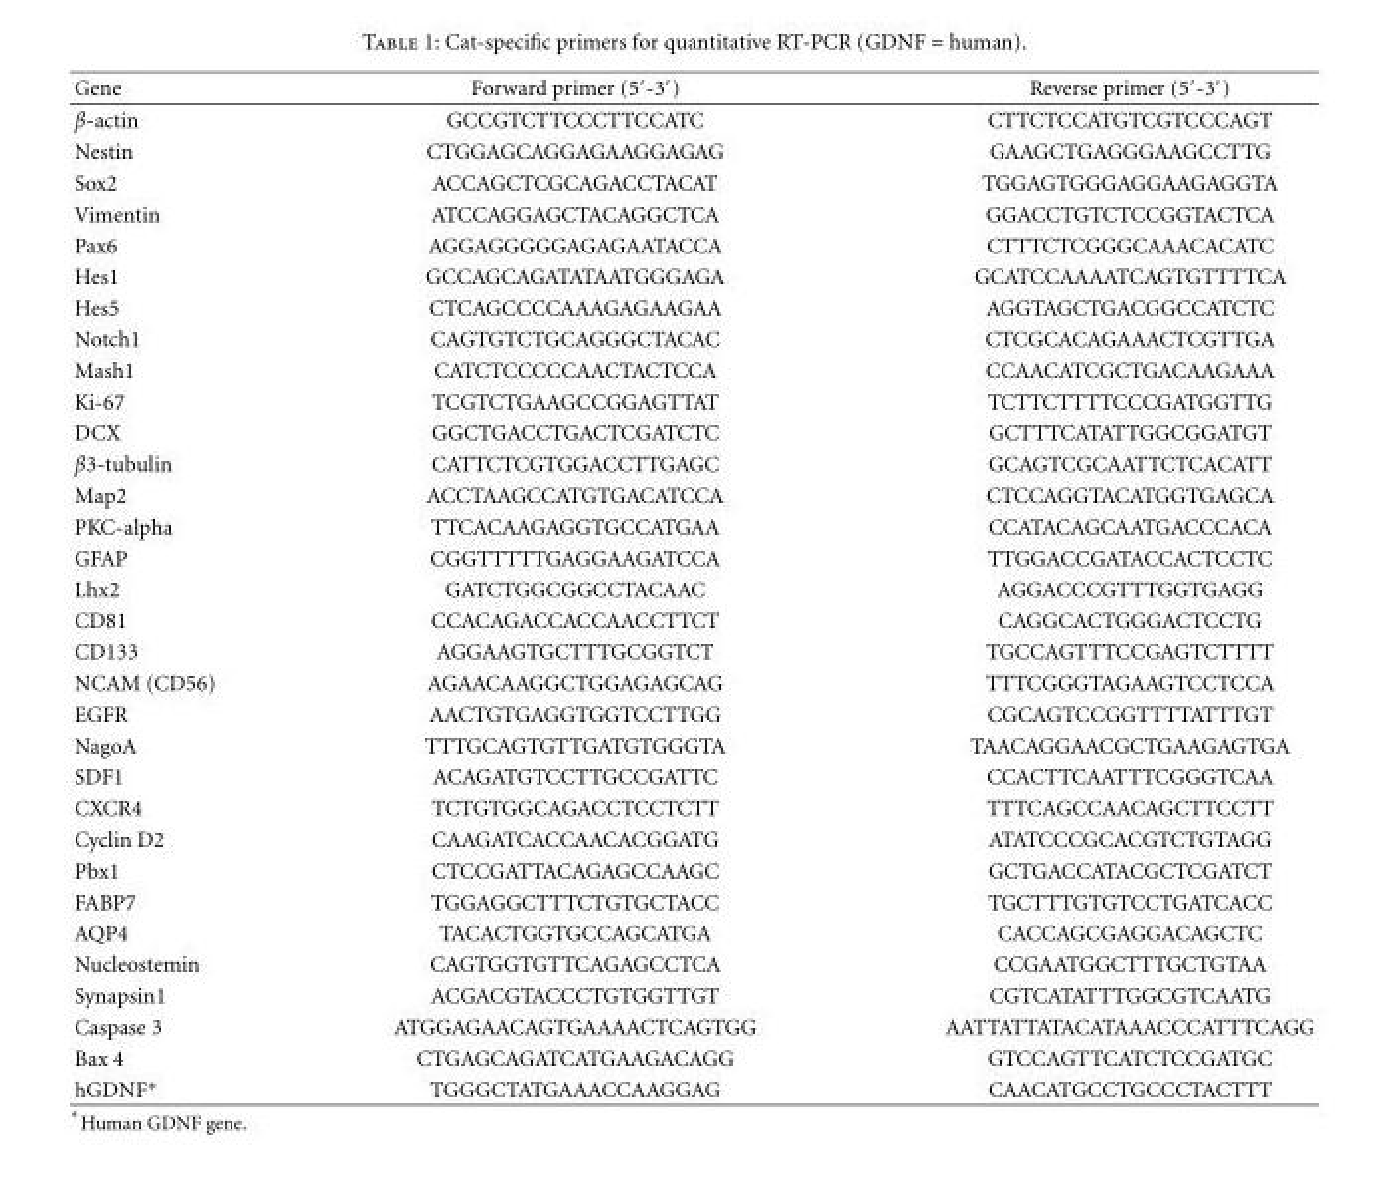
<table><thead><tr><td>Gene</td><td>Forward primer (5′-3′)</td><td>Reverse primer (5′-3′)</td></tr></thead><tbody><tr><td>β-actin</td><td>GCCGTCTTCCCTTCCATC</td><td>CTTCTCCATGTCGTCCCAGT</td></tr><tr><td>Nestin</td><td>CTGGAGCAGGAGAAGGAGAG</td><td>GAAGCTGAGGGAAGCCTTG</td></tr><tr><td>Sox2</td><td>ACCAGCTCGCAGACCTACAT</td><td>TGGAGTGGGAGGAAGAGGTA</td></tr><tr><td>Vimentin</td><td>ATCCAGGAGCTACAGGCTCA</td><td>GGACCTGTCTCCGGTACTCA</td></tr><tr><td>Pax6</td><td>AGGAGGGGGAGAGAATACCA</td><td>CTTTCTCGGGCAAACACATC</td></tr><tr><td>Hes1</td><td>GCCAGCAGATATAATGGGAGA</td><td>GCATCCAAAATCAGTGTTTTCA</td></tr><tr><td>Hes5</td><td>CTCAGCCCCAAAGAGAAGAA</td><td>AGGTAGCTGACGGCCATCTC</td></tr><tr><td>Notch1</td><td>CAGTGTCTGCAGGGCTACAC</td><td>CTCGCACAGAAACTCGTTGA</td></tr><tr><td>Mash1</td><td>CATCTCCCCCAACTACTCCA</td><td>CCAACATCGCTGACAAGAAA</td></tr><tr><td>Ki-67</td><td>TCGTCTGAAGCCGGAGTTAT</td><td>TCTTCTTTTCCCGATGGTTG</td></tr><tr><td>DCX</td><td>GGCTGACCTGACTCGATCTC</td><td>GCTTTCATATTGGCGGATGT</td></tr><tr><td>β3-tubulin</td><td>CATTCTCGTGGACCTTGAGC</td><td>GCAGTCGCAATTCTCACATT</td></tr><tr><td>Map2</td><td>ACCTAAGCCATGTGACATCCA</td><td>CTCCAGGTACATGGTGAGCA</td></tr><tr><td>PKC-alpha</td><td>TTCACAAGAGGTGCCATGAA</td><td>CCATACAGCAATGACCCACA</td></tr><tr><td>GFAP</td><td>CGGTTTTTGAGGAAGATCCA</td><td>TTGGACCGATACCACTCCTC</td></tr><tr><td>Lhx2</td><td>GATCTGGCGGCCTACAAC</td><td>AGGACCCGTTTGGTGAGG</td></tr><tr><td>CD81</td><td>CCACAGACCACCAACCTTCT</td><td>CAGGCACTGGGACTCCTG</td></tr><tr><td>CD133</td><td>AGGAAGTGCTTTGCGGTCT</td><td>TGCCAGTTTCCGAGTCTTTT</td></tr><tr><td>NCAM (CD56)</td><td>AGAACAAGGCTGGAGAGCAG</td><td>TTTCGGGTAGAAGTCCTCCA</td></tr><tr><td>EGFR</td><td>AACTGTGAGGTGGTCCTTGG</td><td>CGCAGTCCGGTTTTATTTGT</td></tr><tr><td>NagoA</td><td>TTTGCAGTGTTGATGTGGGTA</td><td>TAACAGGAACGCTGAAGAGTGA</td></tr><tr><td>SDF1</td><td>ACAGATGTCCTTGCCGATTC</td><td>CCACTTCAATTTCGGGTCAA</td></tr><tr><td>CXCR4</td><td>TCTGTGGCAGACCTCCTCTT</td><td>TTTCAGCCAACAGCTTCCTT</td></tr><tr><td>Cyclin D2</td><td>CAAGATCACCAACACGGATG</td><td>ATATCCCGCACGTCTGTAGG</td></tr><tr><td>Pbx1</td><td>CTCCGATTACAGAGCCAAGC</td><td>GCTGACCATACGCTCGATCT</td></tr><tr><td>FABP7</td><td>TGGAGGCTTTCTGTGCTACC</td><td>TGCTTTGTGTCCTGATCACC</td></tr><tr><td>AQP4</td><td>TACACTGGTGCCAGCATGA</td><td>CACCAGCGAGGACAGCTC</td></tr><tr><td>Nucleostemin</td><td>CAGTGGTGTTCAGAGCCTCA</td><td>CCGAATGGCTTTGCTGTAA</td></tr><tr><td>Synapsin1</td><td>ACGACGTACCCTGTGGTTGT</td><td>CGTCATATTTGGCGTCAATG</td></tr><tr><td>Caspase 3</td><td>ATGGAGAACAGTGAAAACTCAGTGG</td><td>AATTATTATACATAAACCCATTTCAGG</td></tr><tr><td>Bax 4</td><td>CTGAGCAGATCATGAAGACAGG</td><td>GTCCAGTTCATCTCCGATGC</td></tr><tr><td>hGDNF∗</td><td>TGGGCTATGAAACCAAGGAG</td><td>CAACATGCCTGCCCTACTTT</td></tr></tbody></table>